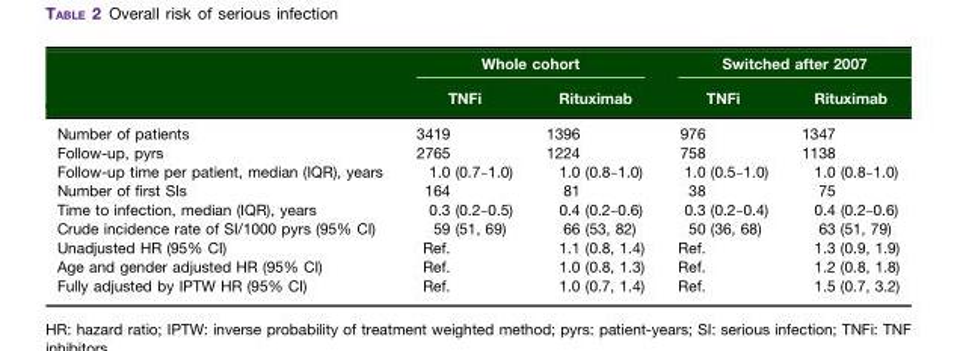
<table><thead><tr><td rowspan="2"></td><td colspan="2">Whole cohort</td><td colspan="2">Switched after 2007</td></tr><tr><td>TNFi</td><td>Rituximab</td><td>TNFi</td><td>Rituximab</td></tr></thead><tbody><tr><td>Number of patients</td><td>3419</td><td>1396</td><td>976</td><td>1347</td></tr><tr><td>Follow-up, pyrs</td><td>2765</td><td>1224</td><td>758</td><td>1138</td></tr><tr><td>Follow-up time per patient, median (IQR), years</td><td>1.0 (0.7–1.0)</td><td>1.0 (0.8–1.0)</td><td>1.0 (0.5–1.0)</td><td>1.0 (0.8–1.0)</td></tr><tr><td>Number of first SIs</td><td>164</td><td>81</td><td>38</td><td>75</td></tr><tr><td>Time to infection, median (IQR), years</td><td>0.3 (0.2–0.5)</td><td>0.4 (0.2–0.6)</td><td>0.3 (0.2–0.4)</td><td>0.4 (0.2–0.6)</td></tr><tr><td>Crude incidence rate of SI/1000 pyrs (95% CI)</td><td>59 (51, 69)</td><td>66 (53, 82)</td><td>50 (36, 68)</td><td>63 (51, 79)</td></tr><tr><td>Unadjusted HR (95% CI)</td><td>Ref.</td><td>1.1 (0.8, 1.4)</td><td>Ref.</td><td>1.3 (0.9, 1.9)</td></tr><tr><td>Age and gender adjusted HR (95% CI)</td><td>Ref.</td><td>1.0 (0.8, 1.3)</td><td>Ref.</td><td>1.2 (0.8, 1.8)</td></tr><tr><td>Fully adjusted by IPTW HR (95% CI)</td><td>Ref.</td><td>1.0 (0.7, 1.4)</td><td>Ref.</td><td>1.5 (0.7, 3.2)</td></tr></tbody></table>